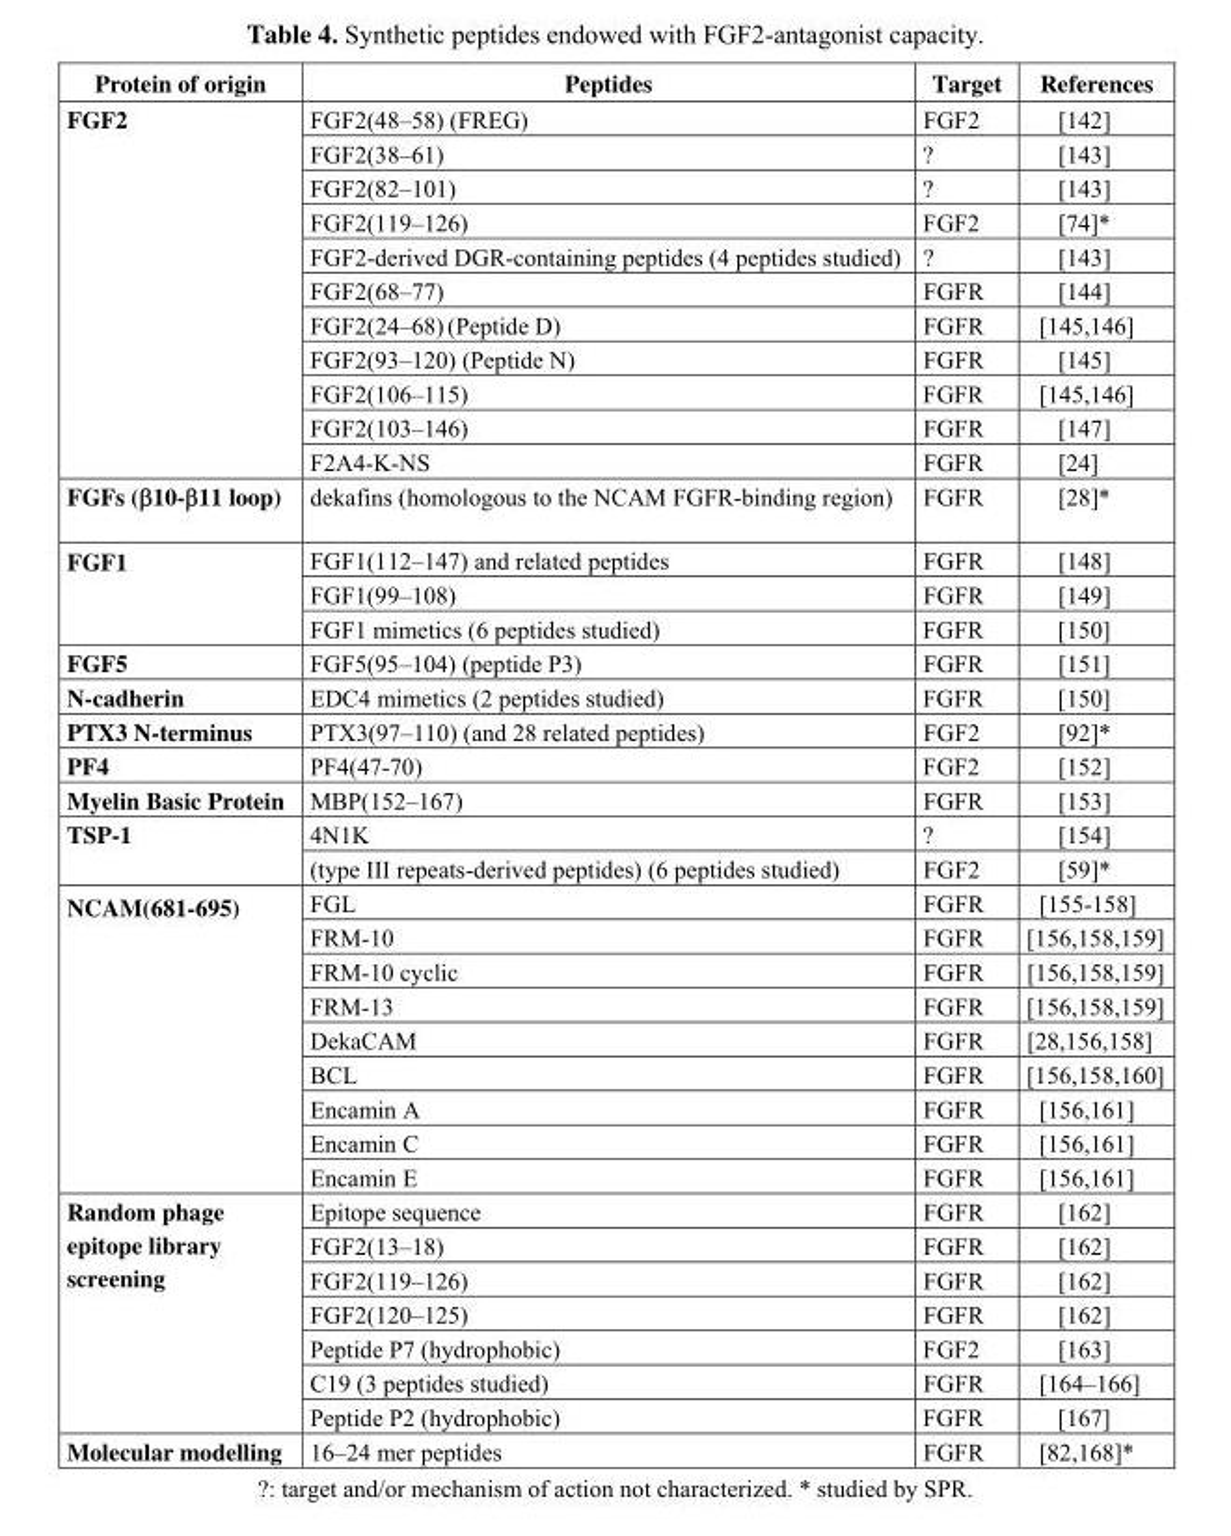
<table><thead><tr><td>Protein of origin</td><td>Peptides</td><td>Target</td><td>References</td></tr></thead><tbody><tr><td rowspan="11">FGF2</td><td>FGF2(48–58) (FREG)</td><td>FGF2</td><td>[142]</td></tr><tr><td>FGF2(38–61)</td><td>?</td><td>[143]</td></tr><tr><td>FGF2(82–101)</td><td>?</td><td>[143]</td></tr><tr><td>FGF2(119–126)</td><td>FGF2</td><td>[74]*</td></tr><tr><td>FGF2-derived DGR-containing peptides (4 peptides studied)</td><td>?</td><td>[143]</td></tr><tr><td>FGF2(68–77)</td><td>FGFR</td><td>[144]</td></tr><tr><td>FGF2(24–68) (Peptide D)</td><td>FGFR</td><td>[145,146]</td></tr><tr><td>FGF2(93–120) (Peptide N)</td><td>FGFR</td><td>[145]</td></tr><tr><td>FGF2(106–115)</td><td>FGFR</td><td>[145,146]</td></tr><tr><td>FGF2(103–146)</td><td>FGFR</td><td>[147]</td></tr><tr><td>F2A4-K-NS</td><td>FGFR</td><td>[24]</td></tr><tr><td>FGFs (β10-β11 loop)</td><td>dekafins (homologous to the NCAM FGFR-binding region)</td><td>FGFR</td><td>[28]*</td></tr><tr><td rowspan="3">FGF1</td><td>FGF1(112–147) and related peptides</td><td>FGFR</td><td>[148]</td></tr><tr><td>FGF1(99–108)</td><td>FGFR</td><td>[149]</td></tr><tr><td>FGF1 mimetics (6 peptides studied)</td><td>FGFR</td><td>[150]</td></tr><tr><td>FGF5</td><td>FGF5(95–104) (peptide P3)</td><td>FGFR</td><td>[151]</td></tr><tr><td>N-cadherin</td><td>EDC4 mimetics (2 peptides studied)</td><td>FGFR</td><td>[150]</td></tr><tr><td>PTX3 N-terminus</td><td>PTX3(97–110) (and 28 related peptides)</td><td>FGF2</td><td>[92]*</td></tr><tr><td>PF4</td><td>PF4(47-70)</td><td>FGF2</td><td>[152]</td></tr><tr><td>Myelin Basic Protein</td><td>MBP(152–167)</td><td>FGFR</td><td>[153]</td></tr><tr><td rowspan="2">TSP-1</td><td>4N1K</td><td>?</td><td>[154]</td></tr><tr><td>(type III repeats-derived peptides) (6 peptides studied)</td><td>FGF2</td><td>[59]*</td></tr><tr><td rowspan="9">NCAM(681-695)</td><td>FGL</td><td>FGFR</td><td>[155-158]</td></tr><tr><td>FRM-10</td><td>FGFR</td><td>[156,158,159]</td></tr><tr><td>FRM-10 cyclic</td><td>FGFR</td><td>[156,158,159]</td></tr><tr><td>FRM-13</td><td>FGFR</td><td>[156,158,159]</td></tr><tr><td>DekaCAM</td><td>FGFR</td><td>[28,156,158]</td></tr><tr><td>BCL</td><td>FGFR</td><td>[156,158,160]</td></tr><tr><td>Encamin A</td><td>FGFR</td><td>[156,161]</td></tr><tr><td>Encamin C</td><td>FGFR</td><td>[156,161]</td></tr><tr><td>Encamin E</td><td>FGFR</td><td>[156,161]</td></tr><tr><td rowspan="7">Random phage epitope library screening</td><td>Epitope sequence</td><td>FGFR</td><td>[162]</td></tr><tr><td>FGF2(13–18)</td><td>FGFR</td><td>[162]</td></tr><tr><td>FGF2(119–126)</td><td>FGFR</td><td>[162]</td></tr><tr><td>FGF2(120–125)</td><td>FGFR</td><td>[162]</td></tr><tr><td>Peptide P7 (hydrophobic)</td><td>FGF2</td><td>[163]</td></tr><tr><td>C19 (3 peptides studied)</td><td>FGFR</td><td>[164–166]</td></tr><tr><td>Peptide P2 (hydrophobic)</td><td>FGFR</td><td>[167]</td></tr><tr><td>Molecular modelling</td><td>16–24 mer peptides</td><td>FGFR</td><td>[82,168]*</td></tr></tbody></table>